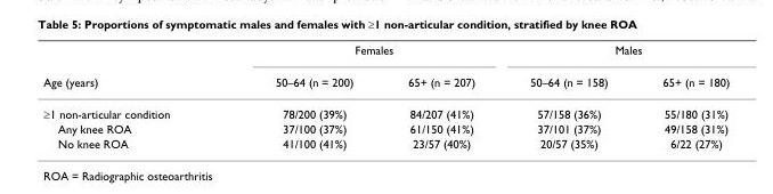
<table><thead><tr><td rowspan="2">Age (years)</td><td colspan="2">Females</td><td colspan="2">Males</td></tr><tr><td>50–64 (n = 200)</td><td>65+ (n = 207)</td><td>50–64 (n = 158)</td><td>65+ (n = 180)</td></tr></thead><tbody><tr><td>≥1 non-articular condition</td><td>78/200 (39%)</td><td>84/207 (41%)</td><td>57/158 (36%)</td><td>55/180 (31%)</td></tr><tr><td>Any knee ROA</td><td>37/100 (37%)</td><td>61/150 (41%)</td><td>37/101 (37%)</td><td>49/158 (31%)</td></tr><tr><td>No knee ROA</td><td>41/100 (41%)</td><td>23/57 (40%)</td><td>20/57 (35%)</td><td>6/22 (27%)</td></tr></tbody></table>